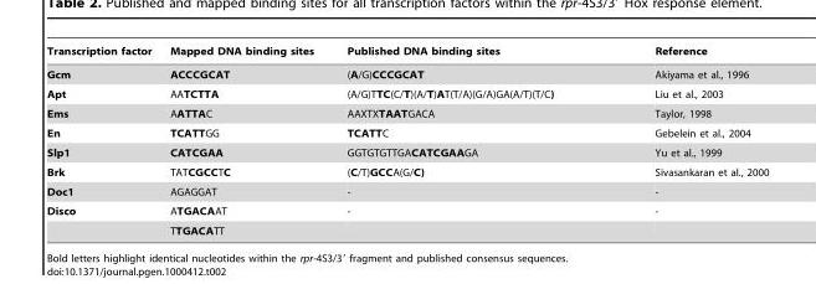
<table><thead><tr><td>Transcription factor</td><td>Mapped DNA binding sites</td><td>Published DNA binding sites</td><td>Reference</td></tr></thead><tbody><tr><td>Gcm</td><td>ACCCGCAT</td><td>(A/G)CCCGCAT</td><td>Akiyama et al., 1996</td></tr><tr><td>Apt</td><td>AATCTTA</td><td>(A/G)TTC(C/T)(A/T)AT(T/A)(G/A)GA(A/T)(T/C)</td><td>Liu et al., 2003</td></tr><tr><td>Ems</td><td>AATTAC</td><td>AAXTXTAATGACA</td><td>Taylor, 1998</td></tr><tr><td>En</td><td>TCATTGG</td><td>TCATTC</td><td>Gebelein et al., 2004</td></tr><tr><td>Slp1</td><td>CATCGAA</td><td>GGTGTGTTGACATCGAAGA</td><td>Yu et al., 1999</td></tr><tr><td>Brk</td><td>TATCGCCTC</td><td>(C/T)GCCA(G/C)</td><td>Sivasankaran et al., 2000</td></tr><tr><td>Doc1</td><td>AGAGGAT</td><td>-</td><td>-</td></tr><tr><td rowspan="2">Disco</td><td>ATGACAAT</td><td>-</td><td>-</td></tr><tr><td>TTGACATT</td><td></td><td></td></tr></tbody></table>